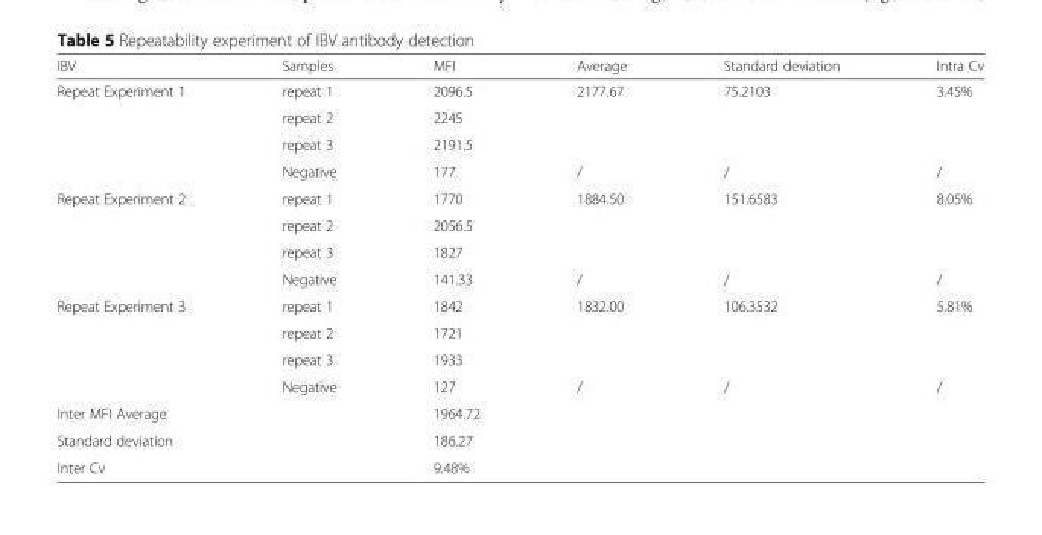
<table><thead><tr><td>IBV</td><td>Samples</td><td>MFI</td><td>Average</td><td>Standard deviation</td><td>Intra Cv</td></tr></thead><tbody><tr><td rowspan="4">Repeat Experiment 1</td><td>repeat 1</td><td>2096.5</td><td rowspan="3">2177.67</td><td rowspan="3">75.2103</td><td rowspan="3">3.45%</td></tr><tr><td>repeat 2</td><td>2245</td></tr><tr><td>repeat 3</td><td>2191.5</td></tr><tr><td>Negative</td><td>177</td><td>/</td><td>/</td><td>/</td></tr><tr><td rowspan="4">Repeat Experiment 2</td><td>repeat 1</td><td>1770</td><td rowspan="3">1884.50</td><td rowspan="3">151.6583</td><td rowspan="3">8.05%</td></tr><tr><td>repeat 2</td><td>2056.5</td></tr><tr><td>repeat 3</td><td>1827</td></tr><tr><td>Negative</td><td>141.33</td><td>/</td><td>/</td><td>/</td></tr><tr><td rowspan="4">Repeat Experiment 3</td><td>repeat 1</td><td>1842</td><td rowspan="3">1832.00</td><td rowspan="3">106.3532</td><td rowspan="3">5.81%</td></tr><tr><td>repeat 2</td><td>1721</td></tr><tr><td>repeat 3</td><td>1933</td></tr><tr><td>Negative</td><td>127</td><td>/</td><td>/</td><td>/</td></tr><tr><td colspan="2">Inter MFI Average</td><td>1964.72</td><td></td><td></td><td></td></tr><tr><td colspan="2">Standard deviation</td><td>186.27</td><td></td><td></td><td></td></tr><tr><td colspan="2">Inter Cv</td><td>9.48%</td><td></td><td></td><td></td></tr></tbody></table>